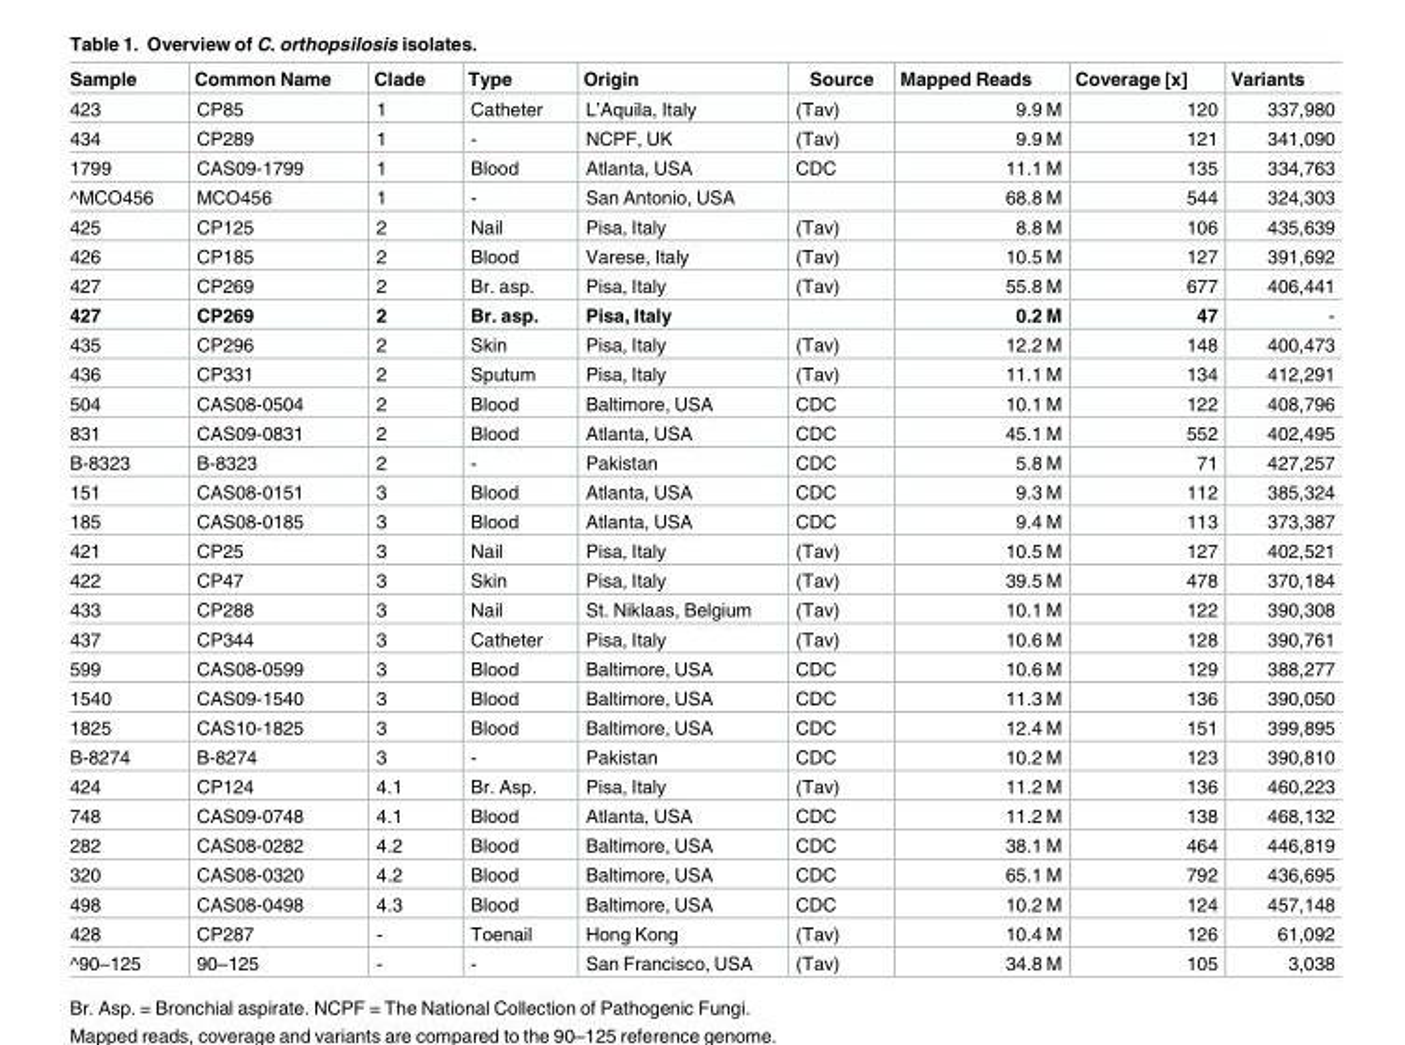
<table><thead><tr><td>Sample</td><td>Common Name</td><td>Clade</td><td>Type</td><td>Origin</td><td>Source</td><td>Mapped Reads</td><td>Coverage [x]</td><td>Variants</td></tr></thead><tbody><tr><td>423</td><td>CP85</td><td>1</td><td>Catheter</td><td>L’Aquila, Italy</td><td>(Tav)</td><td>9.9 M</td><td>120</td><td>337,980</td></tr><tr><td>434</td><td>CP289</td><td>1</td><td>-</td><td>NCPF, UK</td><td>(Tav)</td><td>9.9 M</td><td>121</td><td>341,090</td></tr><tr><td>1799</td><td>CAS09-1799</td><td>1</td><td>Blood</td><td>Atlanta, USA</td><td>CDC</td><td>11.1 M</td><td>135</td><td>334,763</td></tr><tr><td>^MCO456</td><td>MCO456</td><td>1</td><td>-</td><td>San Antonio, USA</td><td></td><td>68.8 M</td><td>544</td><td>324,303</td></tr><tr><td>425</td><td>CP125</td><td>2</td><td>Nail</td><td>Pisa, Italy</td><td>(Tav)</td><td>8.8 M</td><td>106</td><td>435,639</td></tr><tr><td>426</td><td>CP185</td><td>2</td><td>Blood</td><td>Varese, Italy</td><td>(Tav)</td><td>10.5 M</td><td>127</td><td>391,692</td></tr><tr><td>427</td><td>CP269</td><td>2</td><td>Br. asp.</td><td>Pisa, Italy</td><td>(Tav)</td><td>55.8 M</td><td>677</td><td>406,441</td></tr><tr><td>427</td><td>CP269</td><td>2</td><td>Br. asp.</td><td>Pisa, Italy</td><td></td><td>0.2 M</td><td>47</td><td>-</td></tr><tr><td>435</td><td>CP296</td><td>2</td><td>Skin</td><td>Pisa, Italy</td><td>(Tav)</td><td>12.2 M</td><td>148</td><td>400,473</td></tr><tr><td>436</td><td>CP331</td><td>2</td><td>Sputum</td><td>Pisa, Italy</td><td>(Tav)</td><td>11.1 M</td><td>134</td><td>412,291</td></tr><tr><td>504</td><td>CAS08-0504</td><td>2</td><td>Blood</td><td>Baltimore, USA</td><td>CDC</td><td>10.1 M</td><td>122</td><td>408,796</td></tr><tr><td>831</td><td>CAS09-0831</td><td>2</td><td>Blood</td><td>Atlanta, USA</td><td>CDC</td><td>45.1 M</td><td>552</td><td>402,495</td></tr><tr><td>B-8323</td><td>B-8323</td><td>2</td><td>-</td><td>Pakistan</td><td>CDC</td><td>5.8 M</td><td>71</td><td>427,257</td></tr><tr><td>151</td><td>CAS08-0151</td><td>3</td><td>Blood</td><td>Atlanta, USA</td><td>CDC</td><td>9.3 M</td><td>112</td><td>385,324</td></tr><tr><td>185</td><td>CAS08-0185</td><td>3</td><td>Blood</td><td>Atlanta, USA</td><td>CDC</td><td>9.4 M</td><td>113</td><td>373,387</td></tr><tr><td>421</td><td>CP25</td><td>3</td><td>Nail</td><td>Pisa, Italy</td><td>(Tav)</td><td>10.5 M</td><td>127</td><td>402,521</td></tr><tr><td>422</td><td>CP47</td><td>3</td><td>Skin</td><td>Pisa, Italy</td><td>(Tav)</td><td>39.5 M</td><td>478</td><td>370,184</td></tr><tr><td>433</td><td>CP288</td><td>3</td><td>Nail</td><td>St. Niklaas, Belgium</td><td>(Tav)</td><td>10.1 M</td><td>122</td><td>390,308</td></tr><tr><td>437</td><td>CP344</td><td>3</td><td>Catheter</td><td>Pisa, Italy</td><td>(Tav)</td><td>10.6 M</td><td>128</td><td>390,761</td></tr><tr><td>599</td><td>CAS08-0599</td><td>3</td><td>Blood</td><td>Baltimore, USA</td><td>CDC</td><td>10.6 M</td><td>129</td><td>388,277</td></tr><tr><td>1540</td><td>CAS09-1540</td><td>3</td><td>Blood</td><td>Baltimore, USA</td><td>CDC</td><td>11.3 M</td><td>136</td><td>390,050</td></tr><tr><td>1825</td><td>CAS10-1825</td><td>3</td><td>Blood</td><td>Baltimore, USA</td><td>CDC</td><td>12.4 M</td><td>151</td><td>399,895</td></tr><tr><td>B-8274</td><td>B-8274</td><td>3</td><td>-</td><td>Pakistan</td><td>CDC</td><td>10.2 M</td><td>123</td><td>390,810</td></tr><tr><td>424</td><td>CP124</td><td>4.1</td><td>Br. Asp.</td><td>Pisa, Italy</td><td>(Tav)</td><td>11.2 M</td><td>136</td><td>460,223</td></tr><tr><td>748</td><td>CAS09-0748</td><td>4.1</td><td>Blood</td><td>Atlanta, USA</td><td>CDC</td><td>11.2 M</td><td>138</td><td>468,132</td></tr><tr><td>282</td><td>CAS08-0282</td><td>4.2</td><td>Blood</td><td>Baltimore, USA</td><td>CDC</td><td>38.1 M</td><td>464</td><td>446,819</td></tr><tr><td>320</td><td>CAS08-0320</td><td>4.2</td><td>Blood</td><td>Baltimore, USA</td><td>CDC</td><td>65.1 M</td><td>792</td><td>436,695</td></tr><tr><td>498</td><td>CAS08-0498</td><td>4.3</td><td>Blood</td><td>Baltimore, USA</td><td>CDC</td><td>10.2 M</td><td>124</td><td>457,148</td></tr><tr><td>428</td><td>CP287</td><td>-</td><td>Toenail</td><td>Hong Kong</td><td>(Tav)</td><td>10.4 M</td><td>126</td><td>61,092</td></tr><tr><td>^90–125</td><td>90–125</td><td>-</td><td>-</td><td>San Francisco, USA</td><td>(Tav)</td><td>34.8 M</td><td>105</td><td>3,038</td></tr></tbody></table>